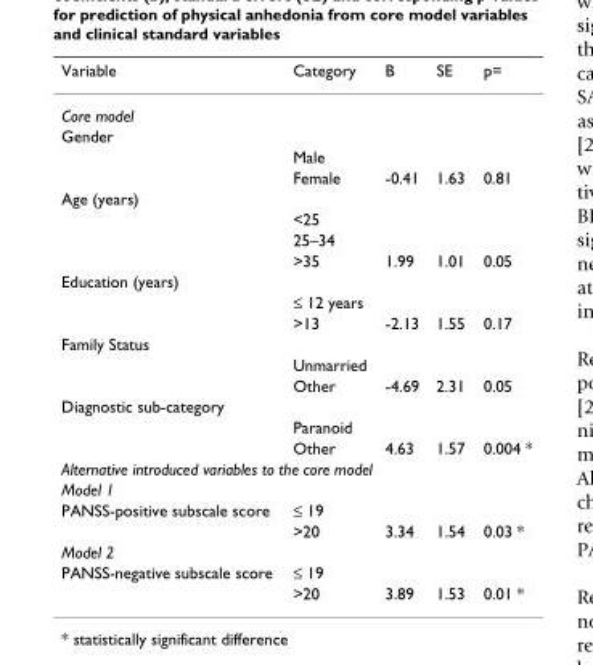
<table><thead><tr><td>Variable</td><td>Category</td><td>B</td><td>SE</td><td>p=</td></tr></thead><tbody><tr><td colspan="5">Core model</td></tr><tr><td colspan="5">Gender</td></tr><tr><td></td><td>Male</td><td></td><td></td><td></td></tr><tr><td></td><td>Female</td><td>-0.41</td><td>1.63</td><td>0.81</td></tr><tr><td colspan="5">Age (years)</td></tr><tr><td></td><td>&lt;25</td><td></td><td></td><td></td></tr><tr><td></td><td>25–34</td><td></td><td></td><td></td></tr><tr><td></td><td>&gt;35</td><td>1.99</td><td>1.01</td><td>0.05</td></tr><tr><td colspan="5">Education (years)</td></tr><tr><td></td><td>≤ 12 years</td><td></td><td></td><td></td></tr><tr><td></td><td>&gt;13</td><td>-2.13</td><td>1.55</td><td>0.17</td></tr><tr><td colspan="5">Family Status</td></tr><tr><td></td><td>Unmarried</td><td></td><td></td><td></td></tr><tr><td></td><td>Other</td><td>-4.69</td><td>2.31</td><td>0.05</td></tr><tr><td colspan="5">Diagnostic sub-category</td></tr><tr><td></td><td>Paranoid</td><td></td><td></td><td></td></tr><tr><td></td><td>Other</td><td>4.63</td><td>1.57</td><td>0.004 *</td></tr><tr><td colspan="5">Alternative introduced variables to the core model</td></tr><tr><td colspan="5">Model 1</td></tr><tr><td rowspan="2">PANSS-positive subscale score</td><td>≤ 19</td><td></td><td></td><td></td></tr><tr><td>&gt;20</td><td>3.34</td><td>1.54</td><td>0.03 *</td></tr><tr><td colspan="5">Model 2</td></tr><tr><td rowspan="2">PANSS-negative subscale score</td><td>≤ 19</td><td></td><td></td><td></td></tr><tr><td>&gt;20</td><td>3.89</td><td>1.53</td><td>0.01 *</td></tr></tbody></table>